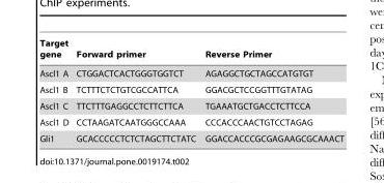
<table><thead><tr><td>Target gene</td><td>Forward primer</td><td>Reverse Primer</td></tr></thead><tbody><tr><td>Ascl1 A</td><td>CTGGACTCACTGGGTGGTCT</td><td>AGAGGCTGCTAGCCATGTGT</td></tr><tr><td>Ascl1 B</td><td>TCTTTCTCTGTCGCCATTCA</td><td>GGACGCTCCGGTTTGTATAG</td></tr><tr><td>Ascl1 C</td><td>TTCTTTGAGGCCTCTTCTTCA</td><td>TGAAATGCTGACCTCTTCCA</td></tr><tr><td>Ascl1 D</td><td>CCTAAGATCAATGGGCCAAA</td><td>CCCACCCAACTGTCCTAGAG</td></tr><tr><td>Gli1</td><td>GCACCCCCTCTCTAGCTTCTATC</td><td>GGACCACCCGCGAGAAGCGCAAACT</td></tr></tbody></table>